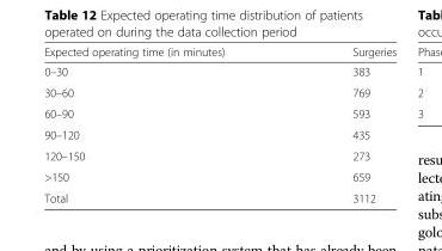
<table><thead><tr><td>Expected operating time (in minutes)</td><td>Surgeries</td></tr></thead><tbody><tr><td>0–30</td><td>383</td></tr><tr><td>30–60</td><td>769</td></tr><tr><td>60–90</td><td>593</td></tr><tr><td>90–120</td><td>435</td></tr><tr><td>120–150</td><td>273</td></tr><tr><td>&gt;150</td><td>659</td></tr><tr><td>Total</td><td>3112</td></tr></tbody></table>